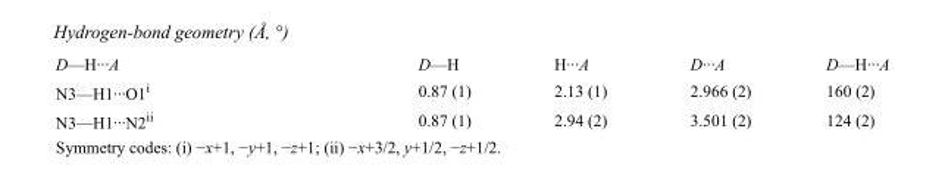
<table><tbody><tr><td>D—H···A</td><td>D—H</td><td>H···A</td><td>D···A</td><td>D—H···A</td></tr><tr><td>N3—H1···O1<sup>i</sup></td><td>0.87 (1)</td><td>2.13 (1)</td><td>2.966 (2)</td><td>160 (2)</td></tr><tr><td>N3—H1···N2<sup>ii</sup></td><td>0.87 (1)</td><td>2.94 (2)</td><td>3.501 (2)</td><td>124 (2)</td></tr></tbody></table>